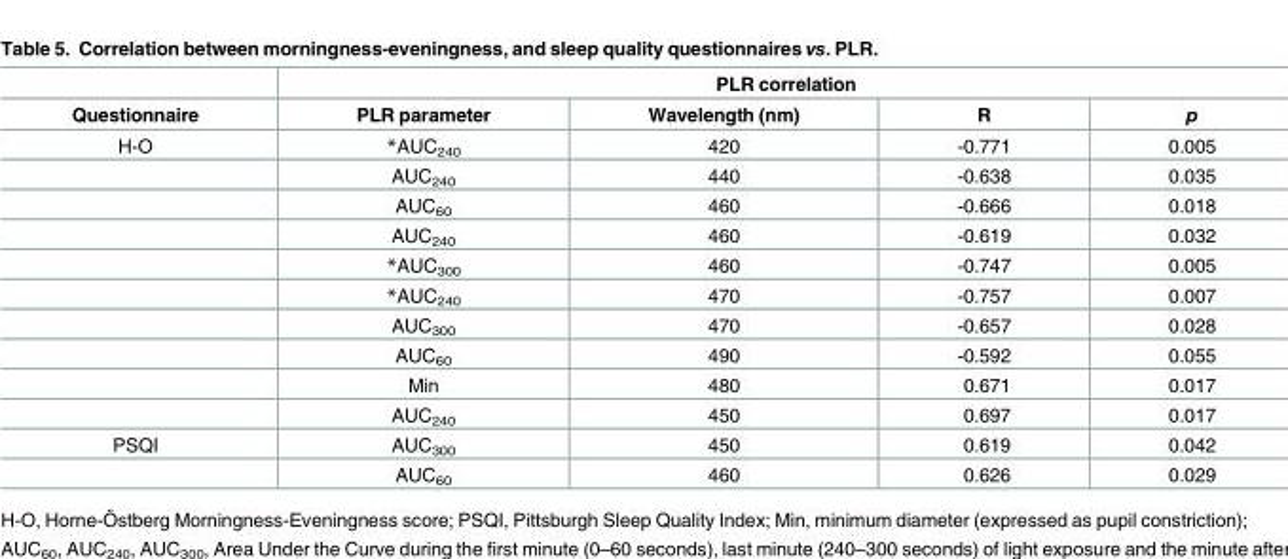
<table><thead><tr><td rowspan="2">Questionnaire</td><td colspan="4">PLR correlation</td></tr><tr><td>PLR parameter</td><td>Wavelength (nm)</td><td>R</td><td>p</td></tr></thead><tbody><tr><td rowspan="10">H-O</td><td>*AUC<sub>240</sub></td><td>420</td><td>-0.771</td><td>0.005</td></tr><tr><td>AUC<sub>240</sub></td><td>440</td><td>-0.638</td><td>0.035</td></tr><tr><td>AUC<sub>60</sub></td><td>460</td><td>-0.666</td><td>0.018</td></tr><tr><td>AUC<sub>240</sub></td><td>460</td><td>-0.619</td><td>0.032</td></tr><tr><td>*AUC<sub>300</sub></td><td>460</td><td>-0.747</td><td>0.005</td></tr><tr><td>*AUC<sub>240</sub></td><td>470</td><td>-0.757</td><td>0.007</td></tr><tr><td>AUC<sub>300</sub></td><td>470</td><td>-0.657</td><td>0.028</td></tr><tr><td>AUC<sub>60</sub></td><td>490</td><td>-0.592</td><td>0.055</td></tr><tr><td>Min</td><td>480</td><td>0.671</td><td>0.017</td></tr><tr><td>AUC<sub>240</sub></td><td>450</td><td>0.697</td><td>0.017</td></tr><tr><td rowspan="2">PSQI</td><td>AUC<sub>300</sub></td><td>450</td><td>0.619</td><td>0.042</td></tr><tr><td>AUC<sub>60</sub></td><td>460</td><td>0.626</td><td>0.029</td></tr></tbody></table>